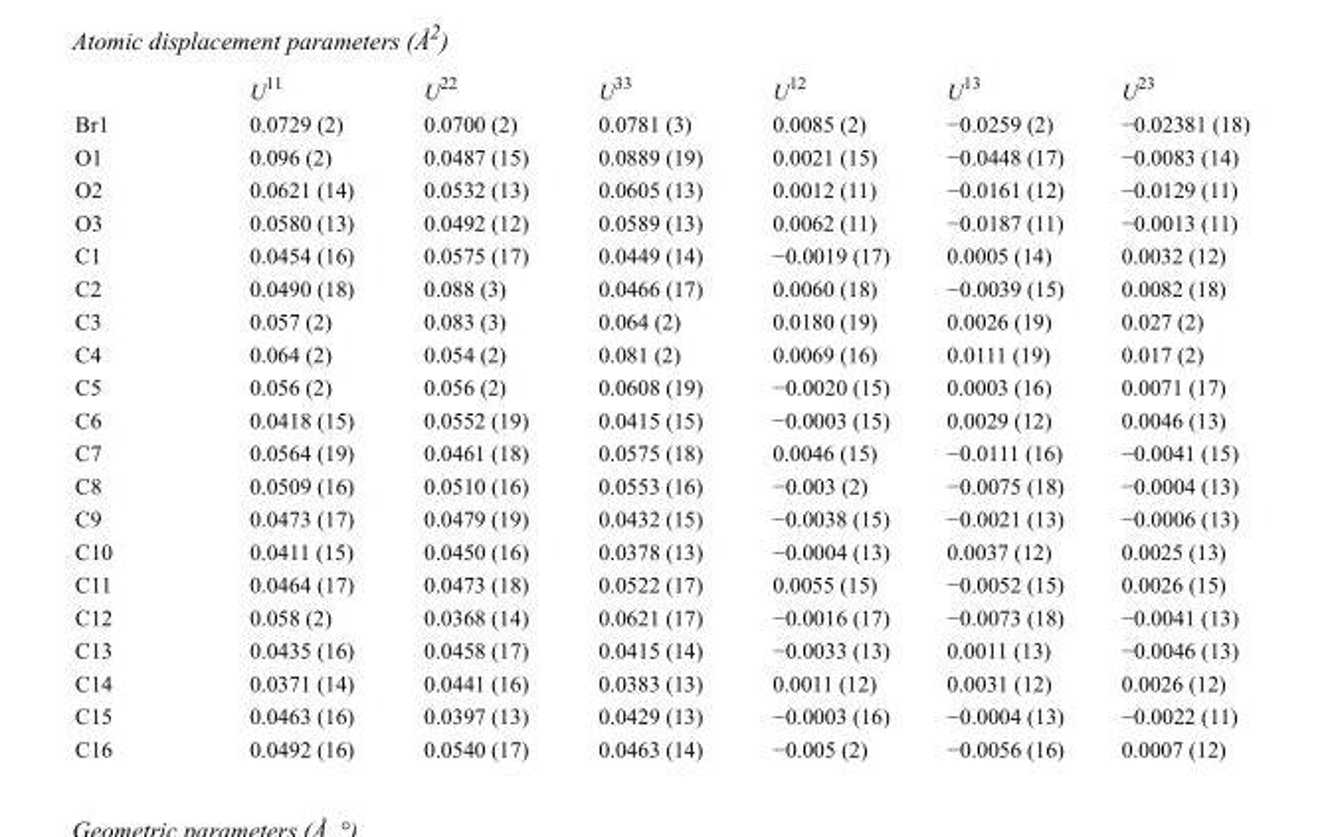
<table><thead><tr><td></td><td>U<sup>11</sup></td><td>U<sup>22</sup></td><td>U<sup>33</sup></td><td>U<sup>12</sup></td><td>U<sup>13</sup></td><td>U<sup>23</sup></td></tr></thead><tbody><tr><td>Br1</td><td>0.0729 (2)</td><td>0.0700 (2)</td><td>0.0781 (3)</td><td>0.0085 (2)</td><td>−0.0259 (2)</td><td>−0.02381 (18)</td></tr><tr><td>O1</td><td>0.096 (2)</td><td>0.0487 (15)</td><td>0.0889 (19)</td><td>0.0021 (15)</td><td>−0.0448 (17)</td><td>−0.0083 (14)</td></tr><tr><td>O2</td><td>0.0621 (14)</td><td>0.0532 (13)</td><td>0.0605 (13)</td><td>0.0012 (11)</td><td>−0.0161 (12)</td><td>−0.0129 (11)</td></tr><tr><td>O3</td><td>0.0580 (13)</td><td>0.0492 (12)</td><td>0.0589 (13)</td><td>0.0062 (11)</td><td>−0.0187 (11)</td><td>−0.0013 (11)</td></tr><tr><td>C1</td><td>0.0454 (16)</td><td>0.0575 (17)</td><td>0.0449 (14)</td><td>−0.0019 (17)</td><td>0.0005 (14)</td><td>0.0032 (12)</td></tr><tr><td>C2</td><td>0.0490 (18)</td><td>0.088 (3)</td><td>0.0466 (17)</td><td>0.0060 (18)</td><td>−0.0039 (15)</td><td>0.0082 (18)</td></tr><tr><td>C3</td><td>0.057 (2)</td><td>0.083 (3)</td><td>0.064 (2)</td><td>0.0180 (19)</td><td>0.0026 (19)</td><td>0.027 (2)</td></tr><tr><td>C4</td><td>0.064 (2)</td><td>0.054 (2)</td><td>0.081 (2)</td><td>0.0069 (16)</td><td>0.0111 (19)</td><td>0.017 (2)</td></tr><tr><td>C5</td><td>0.056 (2)</td><td>0.056 (2)</td><td>0.0608 (19)</td><td>−0.0020 (15)</td><td>0.0003 (16)</td><td>0.0071 (17)</td></tr><tr><td>C6</td><td>0.0418 (15)</td><td>0.0552 (19)</td><td>0.0415 (15)</td><td>−0.0003 (15)</td><td>0.0029 (12)</td><td>0.0046 (13)</td></tr><tr><td>C7</td><td>0.0564 (19)</td><td>0.0461 (18)</td><td>0.0575 (18)</td><td>0.0046 (15)</td><td>−0.0111 (16)</td><td>−0.0041 (15)</td></tr><tr><td>C8</td><td>0.0509 (16)</td><td>0.0510 (16)</td><td>0.0553 (16)</td><td>−0.003 (2)</td><td>−0.0075 (18)</td><td>−0.0004 (13)</td></tr><tr><td>C9</td><td>0.0473 (17)</td><td>0.0479 (19)</td><td>0.0432 (15)</td><td>−0.0038 (15)</td><td>−0.0021 (13)</td><td>−0.0006 (13)</td></tr><tr><td>C10</td><td>0.0411 (15)</td><td>0.0450 (16)</td><td>0.0378 (13)</td><td>−0.0004 (13)</td><td>0.0037 (12)</td><td>0.0025 (13)</td></tr><tr><td>C11</td><td>0.0464 (17)</td><td>0.0473 (18)</td><td>0.0522 (17)</td><td>0.0055 (15)</td><td>−0.0052 (15)</td><td>0.0026 (15)</td></tr><tr><td>C12</td><td>0.058 (2)</td><td>0.0368 (14)</td><td>0.0621 (17)</td><td>−0.0016 (17)</td><td>−0.0073 (18)</td><td>−0.0041 (13)</td></tr><tr><td>C13</td><td>0.0435 (16)</td><td>0.0458 (17)</td><td>0.0415 (14)</td><td>−0.0033 (13)</td><td>0.0011 (13)</td><td>−0.0046 (13)</td></tr><tr><td>C14</td><td>0.0371 (14)</td><td>0.0441 (16)</td><td>0.0383 (13)</td><td>0.0011 (12)</td><td>0.0031 (12)</td><td>0.0026 (12)</td></tr><tr><td>C15</td><td>0.0463 (16)</td><td>0.0397 (13)</td><td>0.0429 (13)</td><td>−0.0003 (16)</td><td>−0.0004 (13)</td><td>−0.0022 (11)</td></tr><tr><td>C16</td><td>0.0492 (16)</td><td>0.0540 (17)</td><td>0.0463 (14)</td><td>−0.005 (2)</td><td>−0.0056 (16)</td><td>0.0007 (12)</td></tr></tbody></table>